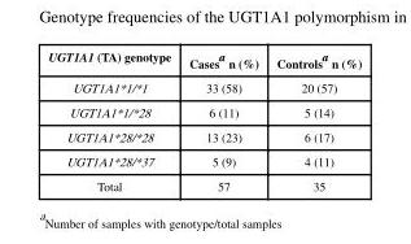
<table><thead><tr><td>UGT1A1 (TA) genotype</td><td>Cases<sup>a</sup> n (%)</td><td>Controls<sup>a</sup> n (%)</td></tr></thead><tbody><tr><td>UGT1A1*1/*1</td><td>33 (58)</td><td>20 (57)</td></tr><tr><td>UGT1A1*1/*28</td><td>6 (11)</td><td>5 (14)</td></tr><tr><td>UGT1A1*28/*28</td><td>13 (23)</td><td>6 (17)</td></tr><tr><td>UGT1A1*28/*37</td><td>5 (9)</td><td>4 (11)</td></tr><tr><td>Total</td><td>57</td><td>35</td></tr></tbody></table>